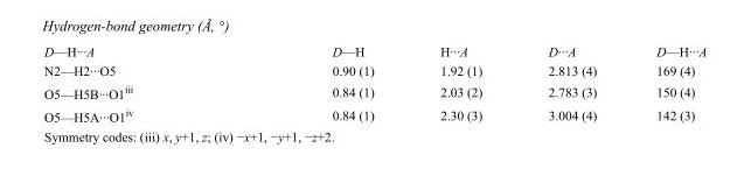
<table><tbody><tr><td>D—H···A</td><td>D—H</td><td>H···A</td><td>D···A</td><td>D—H···A</td></tr><tr><td>N2—H2···O5</td><td>0.90 (1)</td><td>1.92 (1)</td><td>2.813 (4)</td><td>169 (4)</td></tr><tr><td>O5—H5B···O1<sup>iii</sup></td><td>0.84 (1)</td><td>2.03 (2)</td><td>2.783 (3)</td><td>150 (4)</td></tr><tr><td>O5—H5A···O1<sup>iv</sup></td><td>0.84 (1)</td><td>2.30 (3)</td><td>3.004 (4)</td><td>142 (3)</td></tr></tbody></table>